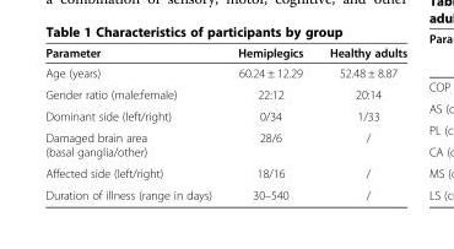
<table><thead><tr><td>Parameter</td><td>Hemiplegics</td><td>Healthy adults</td></tr></thead><tbody><tr><td>Age (years)</td><td>60.24 ± 12.29</td><td>52.48 ± 8.87</td></tr><tr><td>Gender ratio (male:female)</td><td>22:12</td><td>20:14</td></tr><tr><td>Dominant side (left/right)</td><td>0/34</td><td>1/33</td></tr><tr><td>Damaged brain area (basal ganglia/other)</td><td>28/6</td><td>/</td></tr><tr><td>Affected side (left/right)</td><td>18/16</td><td>/</td></tr><tr><td>Duration of illness (range in days)</td><td>30–540</td><td>/</td></tr></tbody></table>